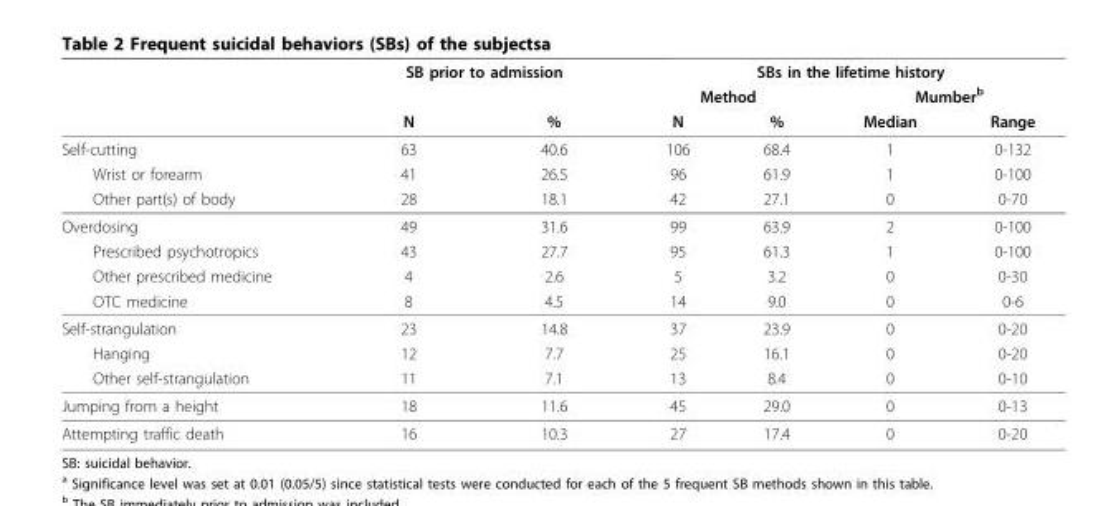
<table><thead><tr><td rowspan="3"></td><td colspan="2">SB prior to admission</td><td colspan="4">SBs in the lifetime history</td></tr><tr><td rowspan="2">N</td><td rowspan="2">%</td><td colspan="2">Method</td><td colspan="2">Mumber<sup>b</sup></td></tr><tr><td>N</td><td>%</td><td>Median</td><td>Range</td></tr></thead><tbody><tr><td>Self-cutting</td><td>63</td><td>40.6</td><td>106</td><td>68.4</td><td>1</td><td>0-132</td></tr><tr><td>Wrist or forearm</td><td>41</td><td>26.5</td><td>96</td><td>61.9</td><td>1</td><td>0-100</td></tr><tr><td>Other part(s) of body</td><td>28</td><td>18.1</td><td>42</td><td>27.1</td><td>0</td><td>0-70</td></tr><tr><td>Overdosing</td><td>49</td><td>31.6</td><td>99</td><td>63.9</td><td>2</td><td>0-100</td></tr><tr><td>Prescribed psychotropics</td><td>43</td><td>27.7</td><td>95</td><td>61.3</td><td>1</td><td>0-100</td></tr><tr><td>Other prescribed medicine</td><td>4</td><td>2.6</td><td>5</td><td>3.2</td><td>0</td><td>0-30</td></tr><tr><td>OTC medicine</td><td>8</td><td>4.5</td><td>14</td><td>9.0</td><td>0</td><td>0-6</td></tr><tr><td>Self-strangulation</td><td>23</td><td>14.8</td><td>37</td><td>23.9</td><td>0</td><td>0-20</td></tr><tr><td>Hanging</td><td>12</td><td>7.7</td><td>25</td><td>16.1</td><td>0</td><td>0-20</td></tr><tr><td>Other self-strangulation</td><td>11</td><td>7.1</td><td>13</td><td>8.4</td><td>0</td><td>0-10</td></tr><tr><td>Jumping from a height</td><td>18</td><td>11.6</td><td>45</td><td>29.0</td><td>0</td><td>0-13</td></tr><tr><td>Attempting traffic death</td><td>16</td><td>10.3</td><td>27</td><td>17.4</td><td>0</td><td>0-20</td></tr></tbody></table>